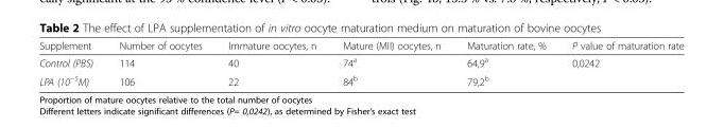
<table><thead><tr><td>Supplement</td><td>Number of oocytes</td><td>Immature oocytes, n</td><td>Mature (MII) oocytes, n</td><td>Maturation rate, %</td><td>P value of maturation rate</td></tr></thead><tbody><tr><td>Control (PBS)</td><td>114</td><td>40</td><td>74<sup>a</sup></td><td>64,9<sup>a</sup></td><td rowspan="2">0,0242</td></tr><tr><td>LPA (10<sup>−5</sup>M)</td><td>106</td><td>22</td><td>84<sup>b</sup></td><td>79,2<sup>b</sup></td></tr></tbody></table>